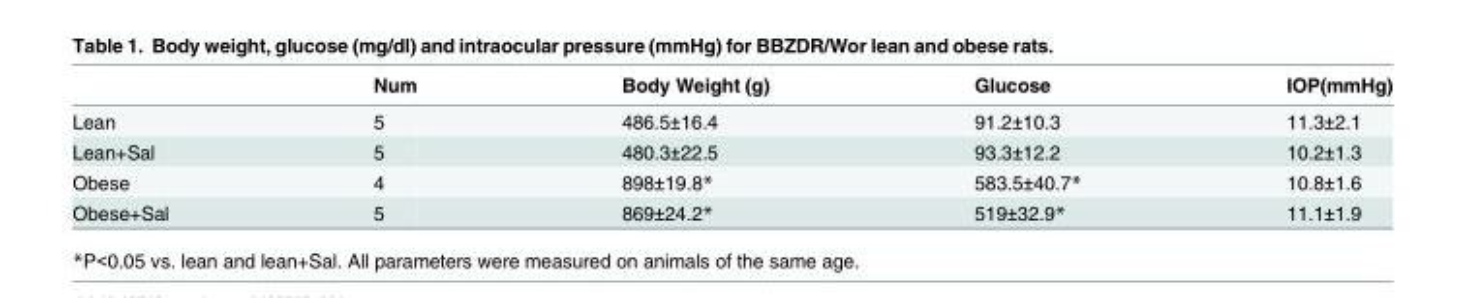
<table><thead><tr><td></td><td>Num</td><td>Body Weight (g)</td><td>Glucose</td><td>IOP(mmHg)</td></tr></thead><tbody><tr><td>Lean</td><td>5</td><td>486.5±16.4</td><td>91.2±10.3</td><td>11.3±2.1</td></tr><tr><td>Lean+Sal</td><td>5</td><td>480.3±22.5</td><td>93.3±12.2</td><td>10.2±1.3</td></tr><tr><td>Obese</td><td>4</td><td>898±19.8*</td><td>583.5±40.7*</td><td>10.8±1.6</td></tr><tr><td>Obese+Sal</td><td>5</td><td>869±24.2*</td><td>519±32.9*</td><td>11.1±1.9</td></tr></tbody></table>